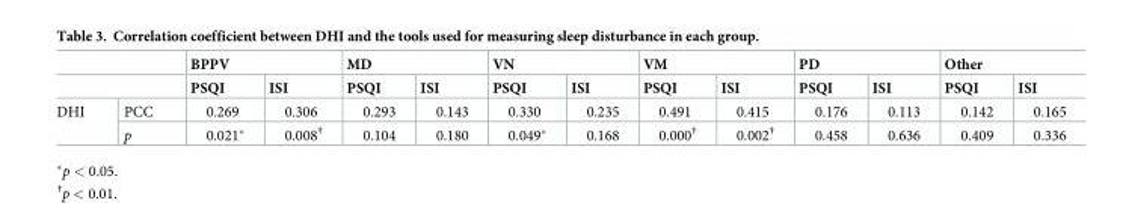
<table><thead><tr><td rowspan="2"></td><td rowspan="2"></td><td colspan="2">BPPV</td><td colspan="2">MD</td><td colspan="2">VN</td><td colspan="2">VM</td><td colspan="2">PD</td><td colspan="2">Other</td></tr><tr><td>PSQI</td><td>ISI</td><td>PSQI</td><td>ISI</td><td>PSQI</td><td>ISI</td><td>PSQI</td><td>ISI</td><td>PSQI</td><td>ISI</td><td>PSQI</td><td>ISI</td></tr></thead><tbody><tr><td rowspan="2">DHI</td><td>PCC</td><td>0.269</td><td>0.306</td><td>0.293</td><td>0.143</td><td>0.330</td><td>0.235</td><td>0.491</td><td>0.415</td><td>0.176</td><td>0.113</td><td>0.142</td><td>0.165</td></tr><tr><td>p</td><td>0.021*</td><td>0.008<sup>†</sup></td><td>0.104</td><td>0.180</td><td>0.049*</td><td>0.168</td><td>0.000<sup>†</sup></td><td>0.002<sup>†</sup></td><td>0.458</td><td>0.636</td><td>0.409</td><td>0.336</td></tr></tbody></table>